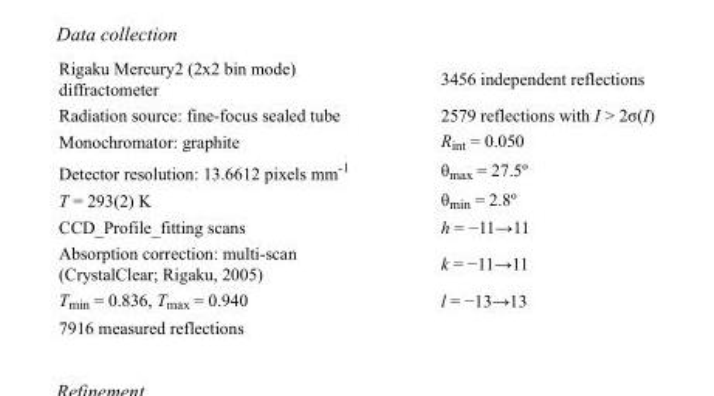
<table><tbody><tr><td>Rigaku Mercury2 (2x2 bin mode) diffractometer</td><td>3456 independent reflections</td></tr><tr><td>Radiation source: fine-focus sealed tube</td><td>2579 reflections with I &gt; 2σ(I)</td></tr><tr><td>Monochromator: graphite</td><td>R<sub>int</sub> = 0.050</td></tr><tr><td>Detector resolution: 13.6612 pixels mm<sup>-1</sup></td><td>θ<sub>max</sub> = 27.5º</td></tr><tr><td>T = 293(2) K</td><td>θ<sub>min</sub> = 2.8º</td></tr><tr><td>CCD_Profile_fitting scans</td><td>h = −11→11</td></tr><tr><td>Absorption correction: multi-scan (CrystalClear; Rigaku, 2005)</td><td>k = −11→11</td></tr><tr><td>T<sub>min</sub> = 0.836, T<sub>max</sub> = 0.940</td><td>l = −13→13</td></tr><tr><td>7916 measured reflections</td><td></td></tr></tbody></table>